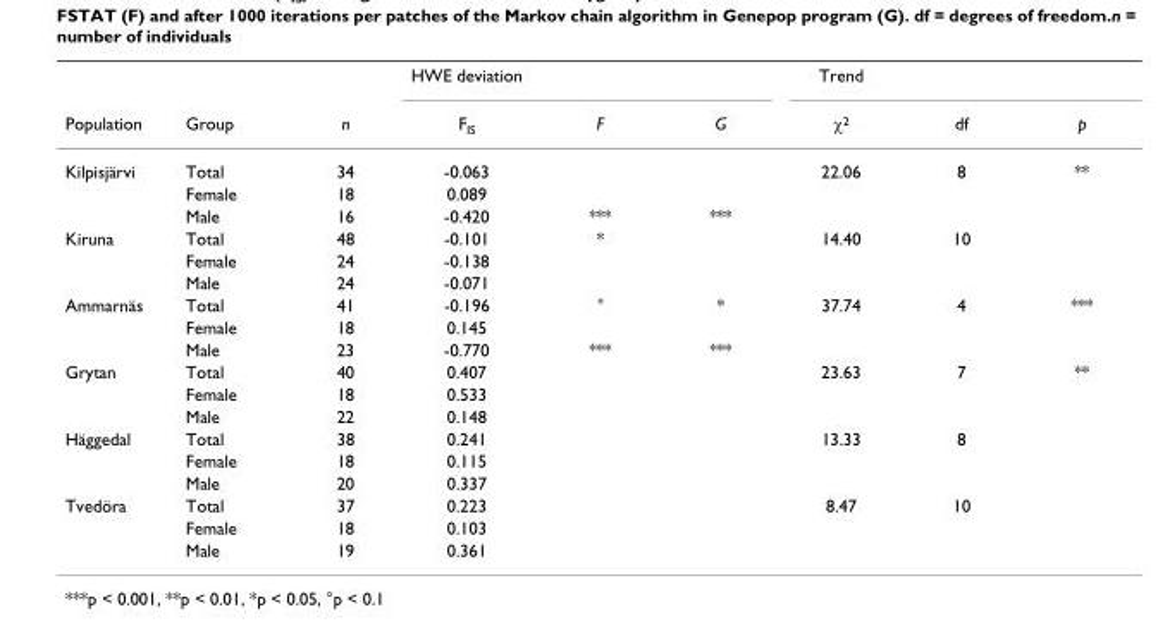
<table><thead><tr><td rowspan="2">Population</td><td rowspan="2">Group</td><td rowspan="2">n</td><td rowspan="2">HWE deviation F<sub>IS</sub></td><td rowspan="2">F</td><td rowspan="2">G</td><td rowspan="2">Trend χ<sup>2</sup></td><td rowspan="2">df</td><td rowspan="2">p</td></tr><tr></tr></thead><tbody><tr><td rowspan="3">Kilpisjärvi</td><td>Total</td><td>34</td><td>-0.063</td><td></td><td></td><td>22.06</td><td>8</td><td>**</td></tr><tr><td>Female</td><td>18</td><td>0.089</td><td></td><td></td><td></td><td></td><td></td></tr><tr><td>Male</td><td>16</td><td>-0.420</td><td>***</td><td>***</td><td></td><td></td><td></td></tr><tr><td rowspan="3">Kiruna</td><td>Total</td><td>48</td><td>-0.101</td><td>*</td><td></td><td>14.40</td><td>10</td><td></td></tr><tr><td>Female</td><td>24</td><td>-0.138</td><td></td><td></td><td></td><td></td><td></td></tr><tr><td>Male</td><td>24</td><td>-0.071</td><td></td><td></td><td></td><td></td><td></td></tr><tr><td rowspan="3">Ammarnäs</td><td>Total</td><td>41</td><td>-0.196</td><td>°</td><td>*</td><td>37.74</td><td>4</td><td>***</td></tr><tr><td>Female</td><td>18</td><td>0.145</td><td></td><td></td><td></td><td></td><td></td></tr><tr><td>Male</td><td>23</td><td>-0.770</td><td>***</td><td>***</td><td></td><td></td><td></td></tr><tr><td rowspan="3">Grytan</td><td>Total</td><td>40</td><td>0.407</td><td></td><td></td><td>23.63</td><td>7</td><td>**</td></tr><tr><td>Female</td><td>18</td><td>0.533</td><td></td><td></td><td></td><td></td><td></td></tr><tr><td>Male</td><td>22</td><td>0.148</td><td></td><td></td><td></td><td></td><td></td></tr><tr><td rowspan="3">Häggedal</td><td>Total</td><td>38</td><td>0.241</td><td></td><td></td><td>13.33</td><td>8</td><td></td></tr><tr><td>Female</td><td>18</td><td>0.115</td><td></td><td></td><td></td><td></td><td></td></tr><tr><td>Male</td><td>20</td><td>0.337</td><td></td><td></td><td></td><td></td><td></td></tr><tr><td rowspan="3">Tvedöra</td><td>Total</td><td>37</td><td>0.223</td><td></td><td></td><td>8.47</td><td>10</td><td></td></tr><tr><td>Female</td><td>18</td><td>0.103</td><td></td><td></td><td></td><td></td><td></td></tr><tr><td>Male</td><td>19</td><td>0.361</td><td></td><td></td><td></td><td></td><td></td></tr></tbody></table>